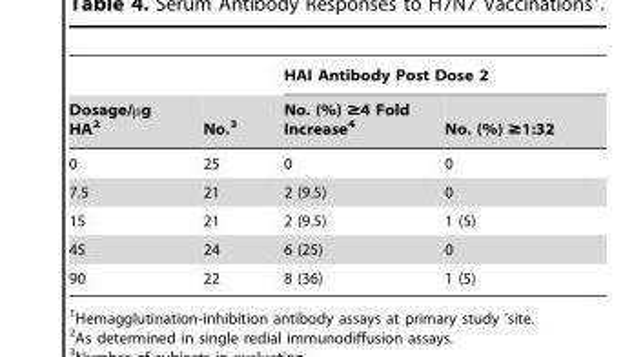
<table><thead><tr><td rowspan="2">Dosage/µg HA<sup>2</sup></td><td rowspan="2">No.<sup>3</sup></td><td colspan="2">HAI Antibody Post Dose 2</td></tr><tr><td>No. (%) ≥4 Fold Increase<sup>4</sup></td><td>No. (%) ≥1:32</td></tr></thead><tbody><tr><td>0</td><td>25</td><td>0</td><td>0</td></tr><tr><td>7.5</td><td>21</td><td>2 (9.5)</td><td>0</td></tr><tr><td>15</td><td>21</td><td>2 (9.5)</td><td>1 (5)</td></tr><tr><td>45</td><td>24</td><td>6 (25)</td><td>0</td></tr><tr><td>90</td><td>22</td><td>8 (36)</td><td>1 (5)</td></tr></tbody></table>